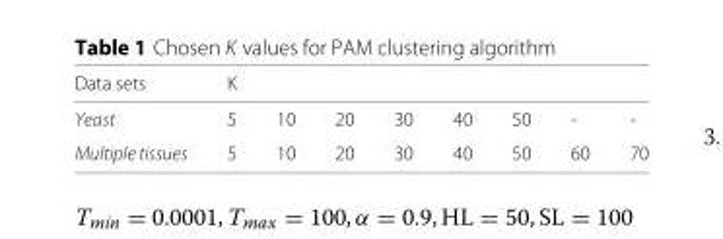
<table><thead><tr><td rowspan="2">Data sets Yeast</td><td colspan="4">K</td><td rowspan="2">40</td><td rowspan="2">50</td><td rowspan="2">-</td><td rowspan="2">-</td></tr><tr><td>5</td><td>10</td><td>20</td><td>30</td></tr></thead><tbody><tr><td>Multiple tissues</td><td>5</td><td>10</td><td>20</td><td>30</td><td>40</td><td>50</td><td>60</td><td>70</td></tr></tbody></table>